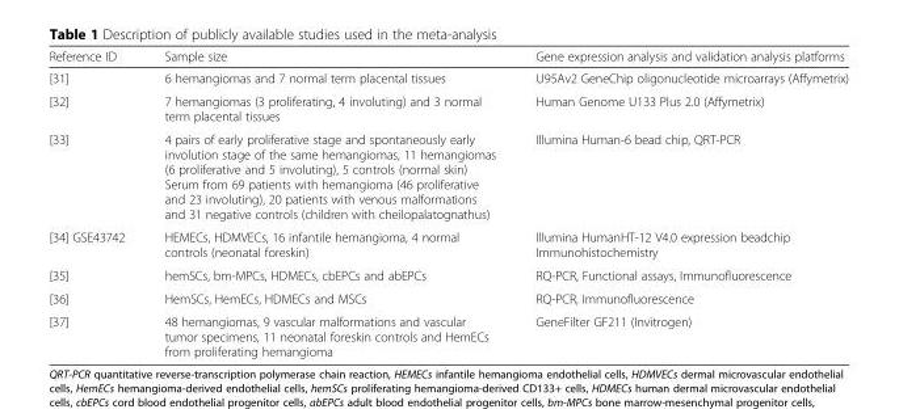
<table><thead><tr><td>Reference ID</td><td>Sample size</td><td>Gene expression analysis and validation analysis platforms</td></tr></thead><tbody><tr><td>[31]</td><td>6 hemangiomas and 7 normal term placental tissues</td><td>U95Av2 GeneChip oligonucleotide microarrays (Affymetrix)</td></tr><tr><td>[32]</td><td>7 hemangiomas (3 proliferating, 4 involuting) and 3 normal term placental tissues</td><td>Human Genome U133 Plus 2.0 (Affymetrix)</td></tr><tr><td>[33]</td><td>4 pairs of early proliferative stage and spontaneously early involution stage of the same hemangiomas, 11 hemangiomas (6 proliferative and 5 involuting), 5 controls (normal skin) Serum from 69 patients with hemangioma (46 proliferative and 23 involuting), 20 patients with venous malformations and 31 negative controls (children with cheilopalatognathus)</td><td>Illumina Human-6 bead chip, QRT-PCR</td></tr><tr><td>[34] GSE43742</td><td>HEMECs, HDMVECs, 16 infantile hemangioma, 4 normal controls (neonatal foreskin)</td><td>Illumina HumanHT-12 V4.0 expression beadchip Immunohistochemistry</td></tr><tr><td>[35]</td><td>hemSCs, bm-MPCs, HDMECs, cbEPCs and abEPCs</td><td>RQ-PCR, Functional assays, Immunofluorescence</td></tr><tr><td>[36]</td><td>HemSCs, HemECs, HDMECs and MSCs</td><td>RQ-PCR, Immunofluorescence</td></tr><tr><td>[37]</td><td>48 hemangiomas, 9 vascular malformations and vascular tumor specimens, 11 neonatal foreskin controls and HemECs from proliferating hemangioma</td><td>GeneFilter GF211 (Invitrogen)</td></tr></tbody></table>